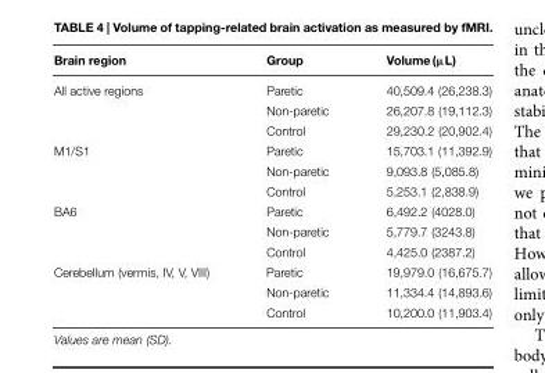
<table><thead><tr><td>Brain region</td><td>Group</td><td>Volume(µL)</td></tr></thead><tbody><tr><td rowspan="3">All active regions</td><td>Paretic</td><td>40,509.4 (26,238.3)</td></tr><tr><td>Non-paretic</td><td>26,207.8 (19,112.3)</td></tr><tr><td>Control</td><td>29,230.2 (20,902.4)</td></tr><tr><td rowspan="3">M1/S1</td><td>Paretic</td><td>15,703.1 (11,392.9)</td></tr><tr><td>Non-paretic</td><td>9,093.8 (5,085.8)</td></tr><tr><td>Control</td><td>5,253.1 (2,838.9)</td></tr><tr><td rowspan="3">BA6</td><td>Paretic</td><td>6,492.2 (4028.0)</td></tr><tr><td>Non-paretic</td><td>5,779.7 (3243.8)</td></tr><tr><td>Control</td><td>4,425.0 (2387.2)</td></tr><tr><td rowspan="3">Cerebellum (vermis, IV, V, VIII)</td><td>Paretic</td><td>19,979.0 (16,675.7)</td></tr><tr><td>Non-paretic</td><td>11,334.4 (14,893.6)</td></tr><tr><td>Control</td><td>10,200.0 (11,903.4)</td></tr></tbody></table>